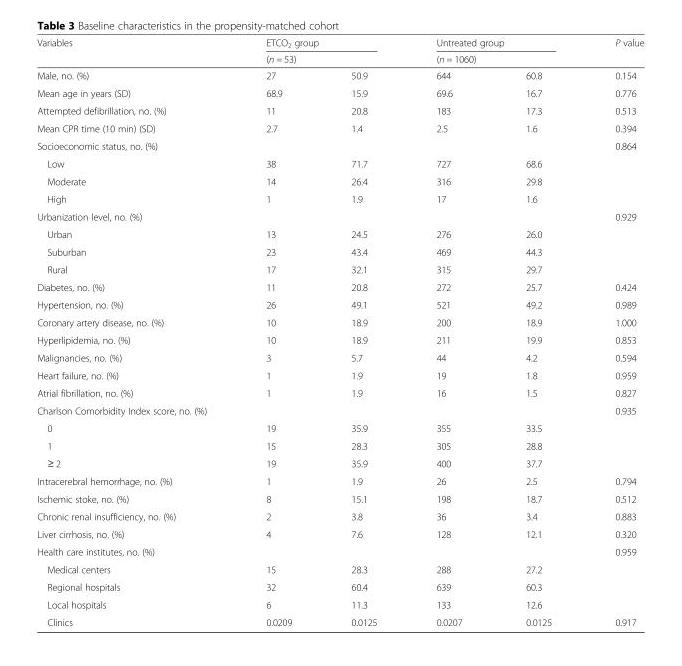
<table><thead><tr><td rowspan="3">Variables Male, no. (%)</td><td rowspan="2" colspan="2">ETCO<sub>2</sub> group (n = 53)</td><td rowspan="2" colspan="2">Untreated group (n = 1060)</td><td rowspan="3">P value 0.154</td></tr><tr></tr><tr><td>27</td><td>50.9</td><td>644</td><td>60.8</td></tr></thead><tbody><tr><td>Mean age in years (SD)</td><td>68.9</td><td>15.9</td><td>69.6</td><td>16.7</td><td>0.776</td></tr><tr><td>Attempted defibrillation, no. (%)</td><td>11</td><td>20.8</td><td>183</td><td>17.3</td><td>0.513</td></tr><tr><td>Mean CPR time (10 min) (SD)</td><td>2.7</td><td>1.4</td><td>2.5</td><td>1.6</td><td>0.394</td></tr><tr><td>Socioeconomic status, no. (%)</td><td></td><td></td><td></td><td></td><td>0.864</td></tr><tr><td>Low</td><td>38</td><td>71.7</td><td>727</td><td>68.6</td><td></td></tr><tr><td>Moderate</td><td>14</td><td>26.4</td><td>316</td><td>29.8</td><td></td></tr><tr><td>High</td><td>1</td><td>1.9</td><td>17</td><td>1.6</td><td></td></tr><tr><td>Urbanization level, no. (%)</td><td></td><td></td><td></td><td></td><td>0.929</td></tr><tr><td>Urban</td><td>13</td><td>24.5</td><td>276</td><td>26.0</td><td></td></tr><tr><td>Suburban</td><td>23</td><td>43.4</td><td>469</td><td>44.3</td><td></td></tr><tr><td>Rural</td><td>17</td><td>32.1</td><td>315</td><td>29.7</td><td></td></tr><tr><td>Diabetes, no. (%)</td><td>11</td><td>20.8</td><td>272</td><td>25.7</td><td>0.424</td></tr><tr><td>Hypertension, no. (%)</td><td>26</td><td>49.1</td><td>521</td><td>49.2</td><td>0.989</td></tr><tr><td>Coronary artery disease, no. (%)</td><td>10</td><td>18.9</td><td>200</td><td>18.9</td><td>1.000</td></tr><tr><td>Hyperlipidemia, no. (%)</td><td>10</td><td>18.9</td><td>211</td><td>19.9</td><td>0.853</td></tr><tr><td>Malignancies, no. (%)</td><td>3</td><td>5.7</td><td>44</td><td>4.2</td><td>0.594</td></tr><tr><td>Heart failure, no. (%)</td><td>1</td><td>1.9</td><td>19</td><td>1.8</td><td>0.959</td></tr><tr><td>Atrial fibrillation, no. (%)</td><td>1</td><td>1.9</td><td>16</td><td>1.5</td><td>0.827</td></tr><tr><td>Charlson Comorbidity Index score, no. (%)</td><td></td><td></td><td></td><td></td><td>0.935</td></tr><tr><td>0</td><td>19</td><td>35.9</td><td>355</td><td>33.5</td><td></td></tr><tr><td>1</td><td>15</td><td>28.3</td><td>305</td><td>28.8</td><td></td></tr><tr><td>≥ 2</td><td>19</td><td>35.9</td><td>400</td><td>37.7</td><td></td></tr><tr><td>Intracerebral hemorrhage, no. (%)</td><td>1</td><td>1.9</td><td>26</td><td>2.5</td><td>0.794</td></tr><tr><td>Ischemic stoke, no. (%)</td><td>8</td><td>15.1</td><td>198</td><td>18.7</td><td>0.512</td></tr><tr><td>Chronic renal insufficiency, no. (%)</td><td>2</td><td>3.8</td><td>36</td><td>3.4</td><td>0.883</td></tr><tr><td>Liver cirrhosis, no. (%)</td><td>4</td><td>7.6</td><td>128</td><td>12.1</td><td>0.320</td></tr><tr><td>Health care institutes, no. (%)</td><td></td><td></td><td></td><td></td><td>0.959</td></tr><tr><td>Medical centers</td><td>15</td><td>28.3</td><td>288</td><td>27.2</td><td></td></tr><tr><td>Regional hospitals</td><td>32</td><td>60.4</td><td>639</td><td>60.3</td><td></td></tr><tr><td>Local hospitals</td><td>6</td><td>11.3</td><td>133</td><td>12.6</td><td></td></tr><tr><td>Clinics</td><td>0.0209</td><td>0.0125</td><td>0.0207</td><td>0.0125</td><td>0.917</td></tr></tbody></table>